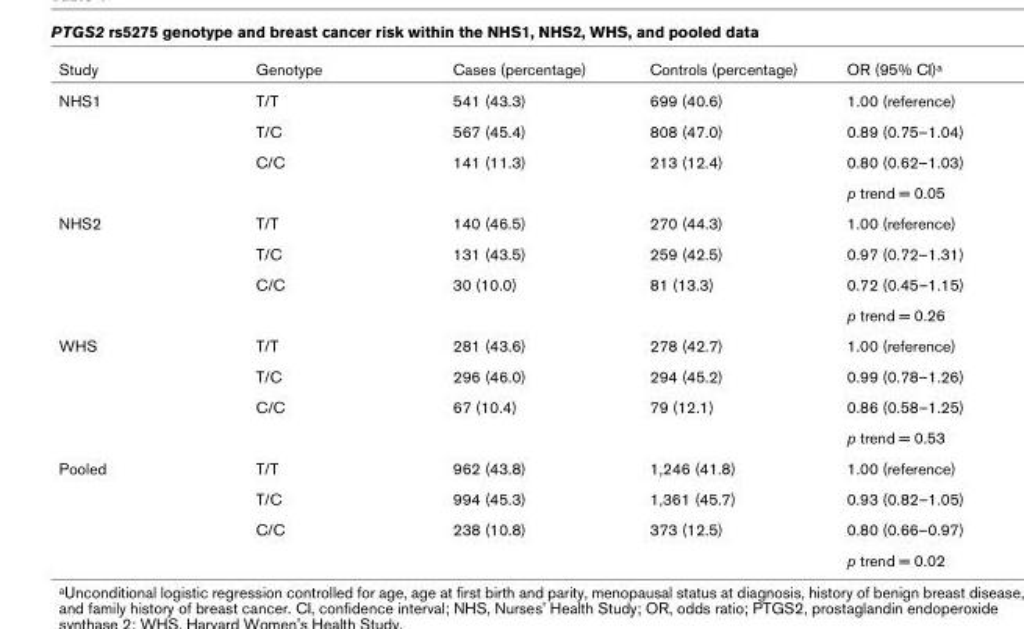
<table><thead><tr><td>Study</td><td>Genotype</td><td>Cases (percentage)</td><td>Controls (percentage)</td><td>OR (95% CI)a</td></tr></thead><tbody><tr><td rowspan="4">NHS1</td><td>T/T</td><td>541 (43.3)</td><td>699 (40.6)</td><td>1.00 (reference)</td></tr><tr><td>T/C</td><td>567 (45.4)</td><td>808 (47.0)</td><td>0.89 (0.75–1.04)</td></tr><tr><td>C/C</td><td>141 (11.3)</td><td>213 (12.4)</td><td>0.80 (0.62–1.03)</td></tr><tr><td></td><td></td><td></td><td>p trend = 0.05</td></tr><tr><td rowspan="4">NHS2</td><td>T/T</td><td>140 (46.5)</td><td>270 (44.3)</td><td>1.00 (reference)</td></tr><tr><td>T/C</td><td>131 (43.5)</td><td>259 (42.5)</td><td>0.97 (0.72–1.31)</td></tr><tr><td>C/C</td><td>30 (10.0)</td><td>81 (13.3)</td><td>0.72 (0.45–1.15)</td></tr><tr><td></td><td></td><td></td><td>p trend = 0.26</td></tr><tr><td rowspan="4">WHS</td><td>T/T</td><td>281 (43.6)</td><td>278 (42.7)</td><td>1.00 (reference)</td></tr><tr><td>T/C</td><td>296 (46.0)</td><td>294 (45.2)</td><td>0.99 (0.78–1.26)</td></tr><tr><td>C/C</td><td>67 (10.4)</td><td>79 (12.1)</td><td>0.86 (0.58–1.25)</td></tr><tr><td></td><td></td><td></td><td>p trend = 0.53</td></tr><tr><td rowspan="4">Pooled</td><td>T/T</td><td>962 (43.8)</td><td>1,246 (41.8)</td><td>1.00 (reference)</td></tr><tr><td>T/C</td><td>994 (45.3)</td><td>1,361 (45.7)</td><td>0.93 (0.82–1.05)</td></tr><tr><td>C/C</td><td>238 (10.8)</td><td>373 (12.5)</td><td>0.80 (0.66–0.97)</td></tr><tr><td></td><td></td><td></td><td>p trend = 0.02</td></tr></tbody></table>